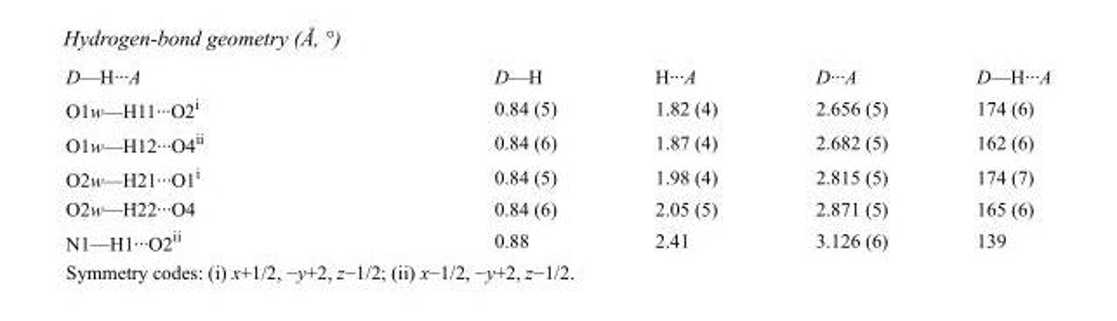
<table><tbody><tr><td>D—H···A</td><td>D—H</td><td>H···A</td><td>D···A</td><td>D—H···A</td></tr><tr><td>O1w—H11···O2<sup>i</sup></td><td>0.84 (5)</td><td>1.82 (4)</td><td>2.656 (5)</td><td>174 (6)</td></tr><tr><td>O1w—H12···O4<sup>ii</sup></td><td>0.84 (6)</td><td>1.87 (4)</td><td>2.682 (5)</td><td>162 (6)</td></tr><tr><td>O2w—H21···O1<sup>i</sup></td><td>0.84 (5)</td><td>1.98 (4)</td><td>2.815 (5)</td><td>174 (7)</td></tr><tr><td>O2w—H22···O4</td><td>0.84 (6)</td><td>2.05 (5)</td><td>2.871 (5)</td><td>165 (6)</td></tr><tr><td>N1—H1···O2<sup>ii</sup></td><td>0.88</td><td>2.41</td><td>3.126 (6)</td><td>139</td></tr></tbody></table>